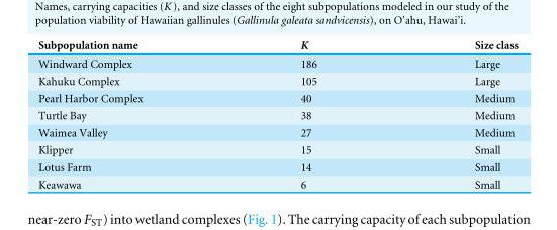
<table><thead><tr><td>Subpopulation name</td><td>K</td><td>Size class</td></tr></thead><tbody><tr><td>Windward Complex</td><td>186</td><td>Large</td></tr><tr><td>Kahuku Complex</td><td>105</td><td>Large</td></tr><tr><td>Pearl Harbor Complex</td><td>40</td><td>Medium</td></tr><tr><td>Turtle Bay</td><td>38</td><td>Medium</td></tr><tr><td>Waimea Valley</td><td>27</td><td>Medium</td></tr><tr><td>Klipper</td><td>15</td><td>Small</td></tr><tr><td>Lotus Farm</td><td>14</td><td>Small</td></tr><tr><td>Keawawa</td><td>6</td><td>Small</td></tr></tbody></table>